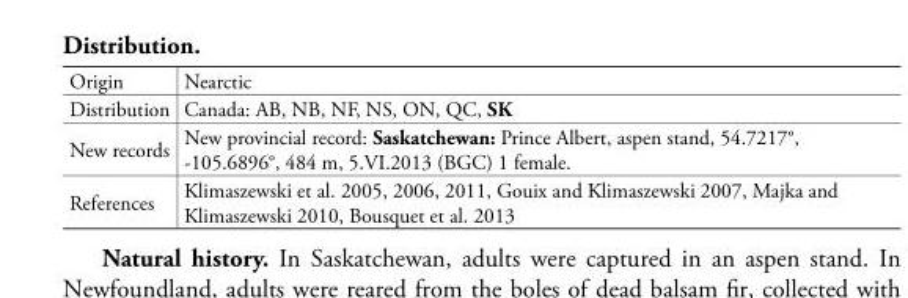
<table><tbody><tr><td>Origin</td><td>Nearctic</td></tr><tr><td>Distribution</td><td>Canada: AB, NB, NF, NS, ON, QC, SK</td></tr><tr><td>New records</td><td>New provincial record: Saskatchewan: Prince Albert, aspen stand, 54.7217°, -105.6896°, 484 m, 5.VI.2013 (BGC) 1 female.</td></tr><tr><td>References</td><td>Klimaszewski et al. 2005, 2006, 2011, Gouix and Klimaszewski 2007, Majka and Klimaszewski 2010, Bousquet et al. 2013</td></tr></tbody></table>